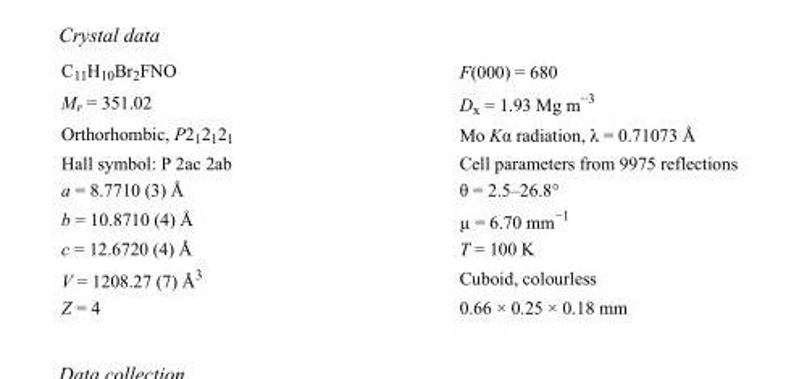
<table><tbody><tr><td>C<sub>11</sub>H<sub>10</sub>Br<sub>2</sub>FNO</td><td>F(000) = 680</td></tr><tr><td>M<sub>r</sub> = 351.02</td><td>D<sub>x</sub> = 1.93 Mg m<sup>−3</sup></td></tr><tr><td>Orthorhombic, P2<sub>1</sub>2<sub>1</sub>2<sub>1</sub></td><td>Mo Kα radiation, λ = 0.71073 Å</td></tr><tr><td>Hall symbol: P 2ac 2ab</td><td>Cell parameters from 9975 reflections</td></tr><tr><td>a = 8.7710 (3) Å</td><td>θ = 2.5–26.8°</td></tr><tr><td>b = 10.8710 (4) Å</td><td>µ = 6.70 mm<sup>−1</sup></td></tr><tr><td>c = 12.6720 (4) Å</td><td>T = 100 K</td></tr><tr><td>V = 1208.27 (7) Å<sup>3</sup></td><td>Cuboid, colourless</td></tr><tr><td>Z = 4</td><td>0.66 × 0.25 × 0.18 mm</td></tr></tbody></table>